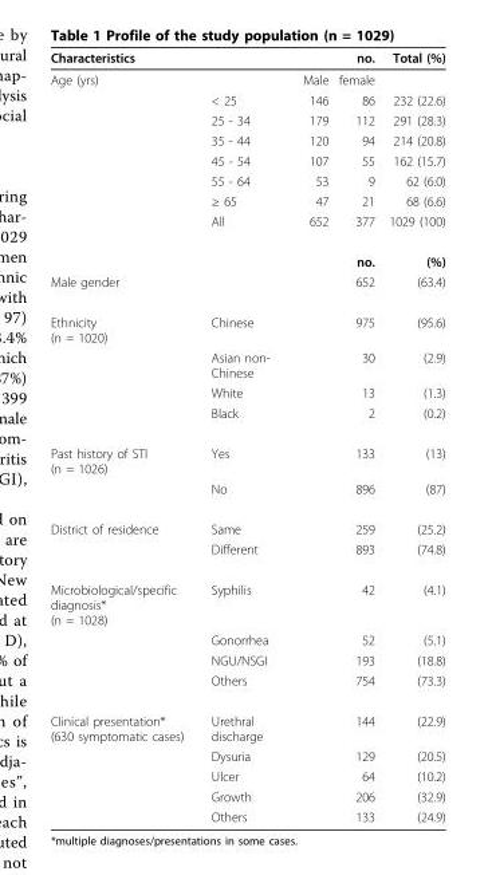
<table><thead><tr><td>Characteristics</td><td></td><td></td><td>no.</td><td>Total (%)</td></tr></thead><tbody><tr><td rowspan="9">Age (yrs)</td><td></td><td>Male</td><td>female</td><td></td></tr><tr><td>&lt; 25</td><td>146</td><td>86</td><td>232 (22.6)</td></tr><tr><td>25 - 34</td><td>179</td><td>112</td><td>291 (28.3)</td></tr><tr><td>35 - 44</td><td>120</td><td>94</td><td>214 (20.8)</td></tr><tr><td>45 - 54</td><td>107</td><td>55</td><td>162 (15.7)</td></tr><tr><td>55 - 64</td><td>53</td><td>9</td><td>62 (6.0)</td></tr><tr><td>≥ 65</td><td>47</td><td>21</td><td>68 (6.6)</td></tr><tr><td>All</td><td>652</td><td>377</td><td>1029 (100)</td></tr><tr><td></td><td></td><td>no.</td><td>(%)</td></tr><tr><td>Male gender</td><td></td><td></td><td>652</td><td>(63.4)</td></tr><tr><td rowspan="4">Ethnicity (n = 1020)</td><td>Chinese</td><td></td><td>975</td><td>(95.6)</td></tr><tr><td>Asian non- Chinese</td><td></td><td>30</td><td>(2.9)</td></tr><tr><td>White</td><td></td><td>13</td><td>(1.3)</td></tr><tr><td>Black</td><td></td><td>2</td><td>(0.2)</td></tr><tr><td rowspan="2">Past history of STI (n = 1026)</td><td>Yes</td><td></td><td>133</td><td>(13)</td></tr><tr><td>No</td><td></td><td>896</td><td>(87)</td></tr><tr><td rowspan="2">District of residence</td><td>Same</td><td></td><td>259</td><td>(25.2)</td></tr><tr><td>Different</td><td></td><td>893</td><td>(74.8)</td></tr><tr><td rowspan="4">Microbiological/specific diagnosis* (n = 1028)</td><td>Syphilis</td><td></td><td>42</td><td>(4.1)</td></tr><tr><td>Gonorrhea</td><td></td><td>52</td><td>(5.1)</td></tr><tr><td>NGU/NSGI</td><td></td><td>193</td><td>(18.8)</td></tr><tr><td>Others</td><td></td><td>754</td><td>(73.3)</td></tr><tr><td rowspan="5">Clinical presentation* (630 symptomatic cases)</td><td>Urethral discharge</td><td></td><td>144</td><td>(22.9)</td></tr><tr><td>Dysuria</td><td></td><td>129</td><td>(20.5)</td></tr><tr><td>Ulcer</td><td></td><td>64</td><td>(10.2)</td></tr><tr><td>Growth</td><td></td><td>206</td><td>(32.9)</td></tr><tr><td>Others</td><td></td><td>133</td><td>(24.9)</td></tr></tbody></table>